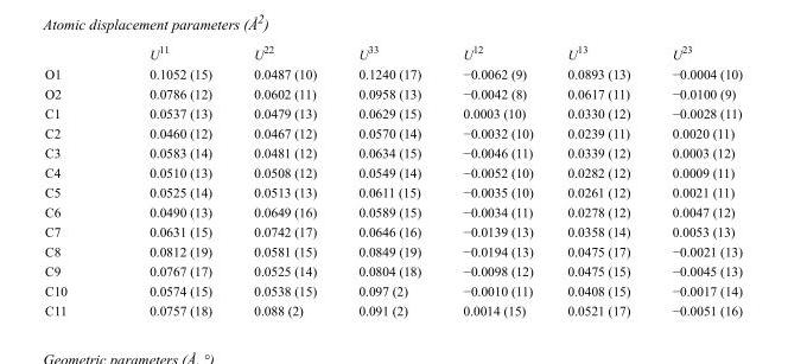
<table><thead><tr><td></td><td>U<sup>11</sup></td><td>U<sup>22</sup></td><td>U<sup>33</sup></td><td>U<sup>12</sup></td><td>U<sup>13</sup></td><td>U<sup>23</sup></td></tr></thead><tbody><tr><td>O1</td><td>0.1052 (15)</td><td>0.0487 (10)</td><td>0.1240 (17)</td><td>−0.0062 (9)</td><td>0.0893 (13)</td><td>−0.0004 (10)</td></tr><tr><td>O2</td><td>0.0786 (12)</td><td>0.0602 (11)</td><td>0.0958 (13)</td><td>−0.0042 (8)</td><td>0.0617 (11)</td><td>−0.0100 (9)</td></tr><tr><td>C1</td><td>0.0537 (13)</td><td>0.0479 (13)</td><td>0.0629 (15)</td><td>0.0003 (10)</td><td>0.0330 (12)</td><td>−0.0028 (11)</td></tr><tr><td>C2</td><td>0.0460 (12)</td><td>0.0467 (12)</td><td>0.0570 (14)</td><td>−0.0032 (10)</td><td>0.0239 (11)</td><td>0.0020 (11)</td></tr><tr><td>C3</td><td>0.0583 (14)</td><td>0.0481 (12)</td><td>0.0634 (15)</td><td>−0.0046 (11)</td><td>0.0339 (12)</td><td>0.0003 (12)</td></tr><tr><td>C4</td><td>0.0510 (13)</td><td>0.0508 (12)</td><td>0.0549 (14)</td><td>−0.0052 (10)</td><td>0.0282 (12)</td><td>0.0009 (11)</td></tr><tr><td>C5</td><td>0.0525 (14)</td><td>0.0513 (13)</td><td>0.0611 (15)</td><td>−0.0035 (10)</td><td>0.0261 (12)</td><td>0.0021 (11)</td></tr><tr><td>C6</td><td>0.0490 (13)</td><td>0.0649 (16)</td><td>0.0589 (15)</td><td>−0.0034 (11)</td><td>0.0278 (12)</td><td>0.0047 (12)</td></tr><tr><td>C7</td><td>0.0631 (15)</td><td>0.0742 (17)</td><td>0.0646 (16)</td><td>−0.0139 (13)</td><td>0.0358 (14)</td><td>0.0053 (13)</td></tr><tr><td>C8</td><td>0.0812 (19)</td><td>0.0581 (15)</td><td>0.0849 (19)</td><td>−0.0194 (13)</td><td>0.0475 (17)</td><td>−0.0021 (13)</td></tr><tr><td>C9</td><td>0.0767 (17)</td><td>0.0525 (14)</td><td>0.0804 (18)</td><td>−0.0098 (12)</td><td>0.0475 (15)</td><td>−0.0045 (13)</td></tr><tr><td>C10</td><td>0.0574 (15)</td><td>0.0538 (15)</td><td>0.097 (2)</td><td>−0.0010 (11)</td><td>0.0408 (15)</td><td>−0.0017 (14)</td></tr><tr><td>C11</td><td>0.0757 (18)</td><td>0.088 (2)</td><td>0.091 (2)</td><td>0.0014 (15)</td><td>0.0521 (17)</td><td>−0.0051 (16)</td></tr></tbody></table>